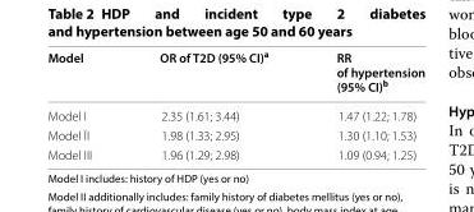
<table><thead><tr><td>Model</td><td>OR of T2D (95% CI)<sup>a</sup></td><td>RR of hypertension (95% CI)<sup>b</sup></td></tr></thead><tbody><tr><td>Model I</td><td>2.35 (1.61; 3.44)</td><td>1.47 (1.22; 1.78)</td></tr><tr><td>Model ÏI</td><td>1.98 (1.33; 2.95)</td><td>1.30 (1.10; 1.53)</td></tr><tr><td>Model III</td><td>1.96 (1.29; 2.98)</td><td>1.09 (0.94; 1.25)</td></tr></tbody></table>